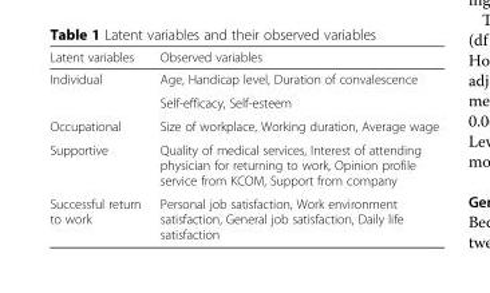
<table><thead><tr><td>Latent variables</td><td>Observed variables</td></tr></thead><tbody><tr><td rowspan="2">Individual</td><td>Age, Handicap level, Duration of convalescence</td></tr><tr><td>Self-efficacy, Self-esteem</td></tr><tr><td>Occupational</td><td>Size of workplace, Working duration, Average wage</td></tr><tr><td>Supportive</td><td>Quality of medical services, Interest of attending physician for returning to work, Opinion profile service from KCOM, Support from company</td></tr><tr><td>Successful return to work</td><td>Personal job satisfaction, Work environment satisfaction, General job satisfaction, Daily life satisfaction</td></tr></tbody></table>